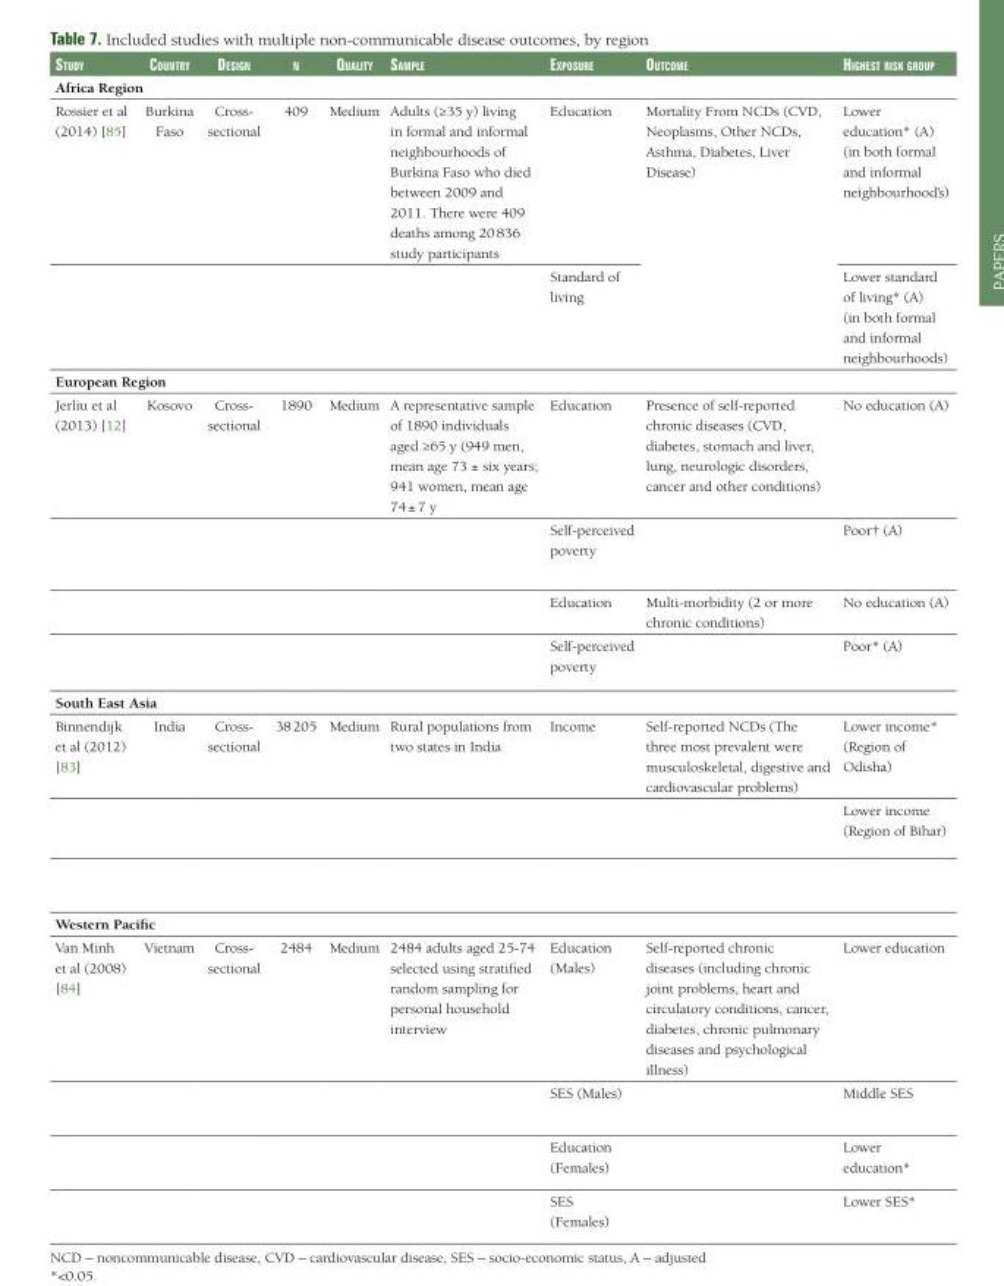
<table><thead><tr><td>Study</td><td>country</td><td>deSign</td><td>n</td><td>Quality</td><td>SamPle</td><td>exPoSure</td><td>outcome</td><td>higheSt riSk grouP</td></tr></thead><tbody><tr><td colspan="9">Africa Region</td></tr><tr><td rowspan="2">Rossier et al (2014) [85]</td><td>Burkina Faso</td><td>Cross- sectional</td><td>409</td><td>Medium</td><td>Adults (≥35 y) living in formal and informal neighbourhoods of Burkina Faso who died between 2009 and 2011. There were 409 deaths among 20 836 study participants</td><td>Education</td><td>Mortality From NCDs (CVD, Neoplasms, Other NCDs, Asthma, Diabetes, Liver Disease)</td><td>Lower education* (A) (in both formal and informal neighbourhood’s)</td></tr><tr><td></td><td></td><td></td><td></td><td></td><td>Standard of living</td><td></td><td>Lower standard of living* (A) (in both formal and informal neighbourhoods)</td></tr><tr><td colspan="9">European Region</td></tr><tr><td rowspan="4">Jerliu et al (2013) [12]</td><td>Kosovo</td><td>Cross- sectional</td><td>1890</td><td>Medium</td><td>A representative sample of 1890 individuals aged ≥65 y (949 men, mean age 73 ± six years; 941 women, mean age 74 ± 7 y</td><td>Education</td><td>Presence of self-reported chronic diseases (CVD, diabetes, stomach and liver, lung, neurologic disorders, cancer and other conditions)</td><td>No education (A)</td></tr><tr><td></td><td></td><td></td><td></td><td></td><td>Self-perceived poverty</td><td></td><td>Poor† (A)</td></tr><tr><td></td><td></td><td></td><td></td><td></td><td>Education</td><td>Multi-morbidity (2 or more chronic conditions)</td><td>No education (A)</td></tr><tr><td></td><td></td><td></td><td></td><td></td><td>Self-perceived poverty</td><td></td><td>Poor* (A)</td></tr><tr><td colspan="9">South East Asia</td></tr><tr><td rowspan="2">Binnendijk et al (2012) [83]</td><td>India</td><td>Cross- sectional</td><td>38 205</td><td>Medium</td><td>Rural populations from two states in India</td><td>Income</td><td>Self-reported NCDs (The three most prevalent were musculoskeletal, digestive and cardiovascular problems)</td><td>Lower income* (Region of Odisha)</td></tr><tr><td></td><td></td><td></td><td></td><td></td><td></td><td></td><td>Lower income (Region of Bihar)</td></tr><tr><td colspan="9">Western Pacific</td></tr><tr><td rowspan="4">Van Minh et al (2008) [84]</td><td>Vietnam</td><td>Cross- sectional</td><td>2484</td><td>Medium</td><td>2484 adults aged 25-74 selected using stratified random sampling for personal household interview</td><td>Education (Males)</td><td>Self-reported chronic diseases (including chronic joint problems, heart and circulatory conditions, cancer, diabetes, chronic pulmonary diseases and psychological illness)</td><td>Lower education</td></tr><tr><td></td><td></td><td></td><td></td><td></td><td>SES (Males)</td><td></td><td>Middle SES</td></tr><tr><td></td><td></td><td></td><td></td><td></td><td>Education (Females)</td><td></td><td>Lower education*</td></tr><tr><td></td><td></td><td></td><td></td><td></td><td>SES (Females)</td><td></td><td>Lower SES*</td></tr></tbody></table>